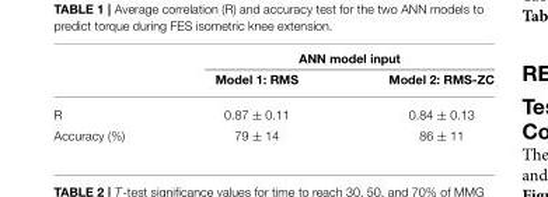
<table><thead><tr><td rowspan="2"></td><td colspan="2">ANN model input</td></tr><tr><td>Model 1: RMS</td><td>Model 2: RMS-ZC</td></tr></thead><tbody><tr><td>R</td><td>0.87 ± 0.11</td><td>0.84 ± 0.13</td></tr><tr><td>Accuracy (%)</td><td>79 ± 14</td><td>86 ± 11</td></tr></tbody></table>